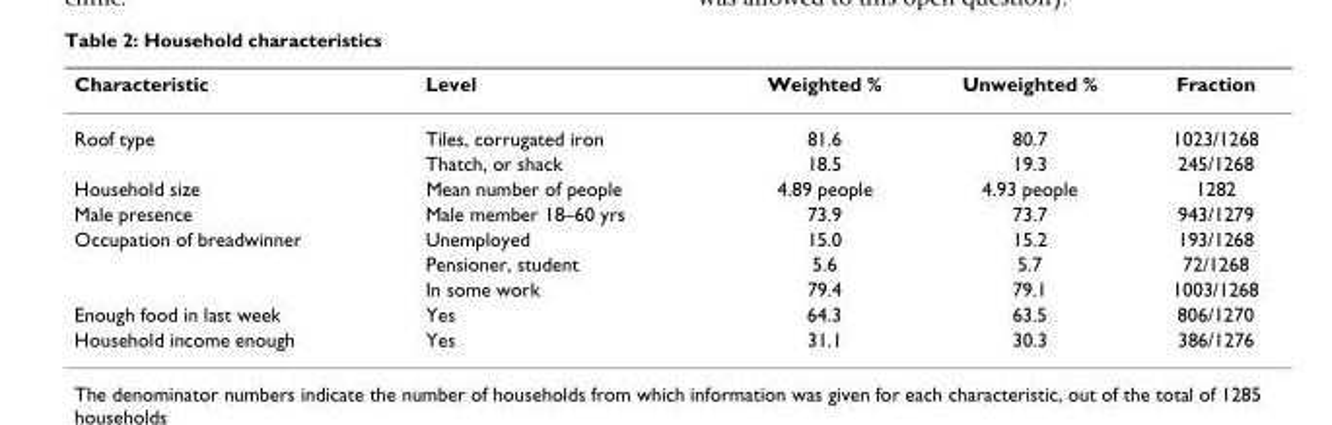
<table><thead><tr><td>Characteristic</td><td>Level</td><td>Weighted %</td><td>Unweighted %</td><td>Fraction</td></tr></thead><tbody><tr><td rowspan="2">Roof type</td><td>Tiles, corrugated iron</td><td>81.6</td><td>80.7</td><td>1023/1268</td></tr><tr><td>Thatch, or shack</td><td>18.5</td><td>19.3</td><td>245/1268</td></tr><tr><td>Household size</td><td>Mean number of people</td><td>4.89 people</td><td>4.93 people</td><td>1282</td></tr><tr><td>Male presence</td><td>Male member 18–60 yrs</td><td>73.9</td><td>73.7</td><td>943/1279</td></tr><tr><td rowspan="3">Occupation of breadwinner</td><td>Unemployed</td><td>15.0</td><td>15.2</td><td>193/1268</td></tr><tr><td>Pensioner, student</td><td>5.6</td><td>5.7</td><td>72/1268</td></tr><tr><td>In some work</td><td>79.4</td><td>79.1</td><td>1003/1268</td></tr><tr><td>Enough food in last week</td><td>Yes</td><td>64.3</td><td>63.5</td><td>806/1270</td></tr><tr><td>Household income enough</td><td>Yes</td><td>31.1</td><td>30.3</td><td>386/1276</td></tr></tbody></table>